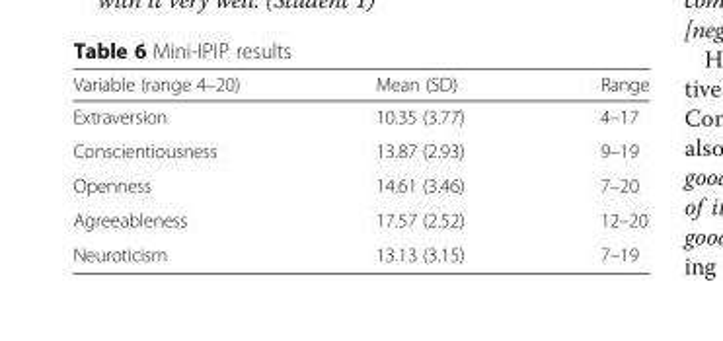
<table><thead><tr><td>Variable (range 4–20)</td><td>Mean (SD)</td><td>Range</td></tr></thead><tbody><tr><td>Extraversion</td><td>10.35 (3.77)</td><td>4–17</td></tr><tr><td>Conscientiousness</td><td>13.87 (2.93)</td><td>9–19</td></tr><tr><td>Openness</td><td>14.61 (3.46)</td><td>7–20</td></tr><tr><td>Agreeableness</td><td>17.57 (2.52)</td><td>12–20</td></tr><tr><td>Neuroticism</td><td>13.13 (3.15)</td><td>7–19</td></tr></tbody></table>